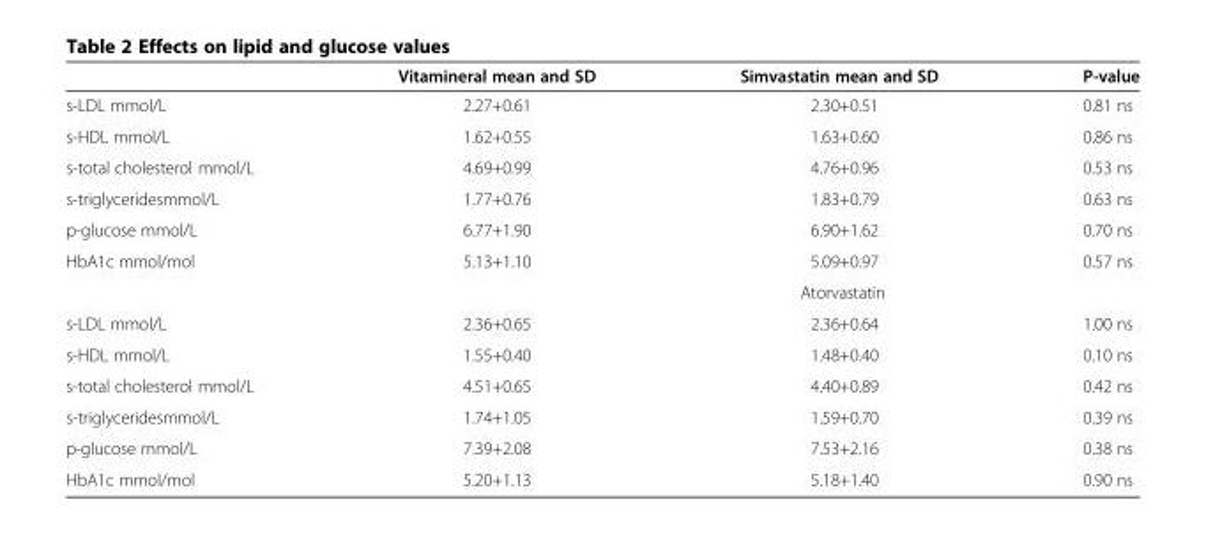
<table><thead><tr><td></td><td>Vitamineral mean and SD</td><td>Simvastatin mean and SD</td><td>P-value</td></tr></thead><tbody><tr><td>s-LDL mmol/L</td><td>2.27+0.61</td><td>2.30+0.51</td><td>0.81 ns</td></tr><tr><td>s-HDL mmol/L</td><td>1.62+0.55</td><td>1.63+0.60</td><td>0.86 ns</td></tr><tr><td>s-total cholesterol mmol/L</td><td>4.69+0.99</td><td>4.76+0.96</td><td>0.53 ns</td></tr><tr><td>s-triglyceridesmmol/L</td><td>1.77+0.76</td><td>1.83+0.79</td><td>0.63 ns</td></tr><tr><td>p-glucose mmol/L</td><td>6.77+1.90</td><td>6.90+1.62</td><td>0.70 ns</td></tr><tr><td rowspan="2">HbA1c mmol/mol</td><td>5.13+1.10</td><td>5.09+0.97</td><td>0.57 ns</td></tr><tr><td></td><td>Atorvastatin</td><td></td></tr><tr><td>s-LDL mmol/L</td><td>2.36+0.65</td><td>2.36+0.64</td><td>1.00 ns</td></tr><tr><td>s-HDL mmol/L</td><td>1.55+0.40</td><td>1.48+0.40</td><td>0.10 ns</td></tr><tr><td>s-total cholesterol mmol/L</td><td>4.51+0.65</td><td>4.40+0.89</td><td>0.42 ns</td></tr><tr><td>s-triglyceridesmmol/L</td><td>1.74+1.05</td><td>1.59+0.70</td><td>0.39 ns</td></tr><tr><td>p-glucose mmol/L</td><td>7.39+2.08</td><td>7.53+2.16</td><td>0.38 ns</td></tr><tr><td>HbA1c mmol/mol</td><td>5.20+1.13</td><td>5.18+1.40</td><td>0.90 ns</td></tr></tbody></table>